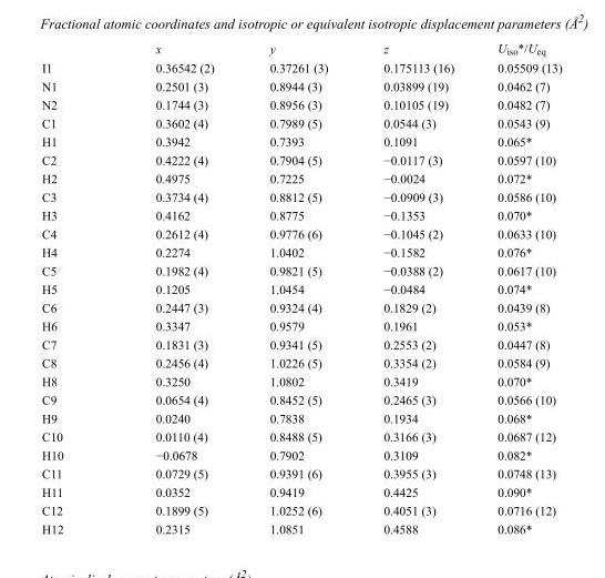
<table><thead><tr><td></td><td>x</td><td>y</td><td>z</td><td>U<sub>iso</sub>*/U<sub>eq</sub></td></tr></thead><tbody><tr><td>I1</td><td>0.36542 (2)</td><td>0.37261 (3)</td><td>0.175113 (16)</td><td>0.05509 (13)</td></tr><tr><td>N1</td><td>0.2501 (3)</td><td>0.8944 (3)</td><td>0.03899 (19)</td><td>0.0462 (7)</td></tr><tr><td>N2</td><td>0.1744 (3)</td><td>0.8956 (3)</td><td>0.10105 (19)</td><td>0.0482 (7)</td></tr><tr><td>C1</td><td>0.3602 (4)</td><td>0.7989 (5)</td><td>0.0544 (3)</td><td>0.0543 (9)</td></tr><tr><td>H1</td><td>0.3942</td><td>0.7393</td><td>0.1091</td><td>0.065*</td></tr><tr><td>C2</td><td>0.4222 (4)</td><td>0.7904 (5)</td><td>−0.0117 (3)</td><td>0.0597 (10)</td></tr><tr><td>H2</td><td>0.4975</td><td>0.7225</td><td>−0.0024</td><td>0.072*</td></tr><tr><td>C3</td><td>0.3734 (4)</td><td>0.8812 (5)</td><td>−0.0909 (3)</td><td>0.0586 (10)</td></tr><tr><td>H3</td><td>0.4162</td><td>0.8775</td><td>−0.1353</td><td>0.070*</td></tr><tr><td>C4</td><td>0.2612 (4)</td><td>0.9776 (6)</td><td>−0.1045 (2)</td><td>0.0633 (10)</td></tr><tr><td>H4</td><td>0.2274</td><td>1.0402</td><td>−0.1582</td><td>0.076*</td></tr><tr><td>C5</td><td>0.1982 (4)</td><td>0.9821 (5)</td><td>−0.0388 (2)</td><td>0.0617 (10)</td></tr><tr><td>H5</td><td>0.1205</td><td>1.0454</td><td>−0.0484</td><td>0.074*</td></tr><tr><td>C6</td><td>0.2447 (3)</td><td>0.9324 (4)</td><td>0.1829 (2)</td><td>0.0439 (8)</td></tr><tr><td>H6</td><td>0.3347</td><td>0.9579</td><td>0.1961</td><td>0.053*</td></tr><tr><td>C7</td><td>0.1831 (3)</td><td>0.9341 (5)</td><td>0.2553 (2)</td><td>0.0447 (8)</td></tr><tr><td>C8</td><td>0.2456 (4)</td><td>1.0226 (5)</td><td>0.3354 (2)</td><td>0.0584 (9)</td></tr><tr><td>H8</td><td>0.3250</td><td>1.0802</td><td>0.3419</td><td>0.070*</td></tr><tr><td>C9</td><td>0.0654 (4)</td><td>0.8452 (5)</td><td>0.2465 (3)</td><td>0.0566 (10)</td></tr><tr><td>H9</td><td>0.0240</td><td>0.7838</td><td>0.1934</td><td>0.068*</td></tr><tr><td>C10</td><td>0.0110 (4)</td><td>0.8488 (5)</td><td>0.3166 (3)</td><td>0.0687 (12)</td></tr><tr><td>H10</td><td>−0.0678</td><td>0.7902</td><td>0.3109</td><td>0.082*</td></tr><tr><td>C11</td><td>0.0729 (5)</td><td>0.9391 (6)</td><td>0.3955 (3)</td><td>0.0748 (13)</td></tr><tr><td>H11</td><td>0.0352</td><td>0.9419</td><td>0.4425</td><td>0.090*</td></tr><tr><td>C12</td><td>0.1899 (5)</td><td>1.0252 (6)</td><td>0.4051 (3)</td><td>0.0716 (12)</td></tr><tr><td>H12</td><td>0.2315</td><td>1.0851</td><td>0.4588</td><td>0.086*</td></tr></tbody></table>